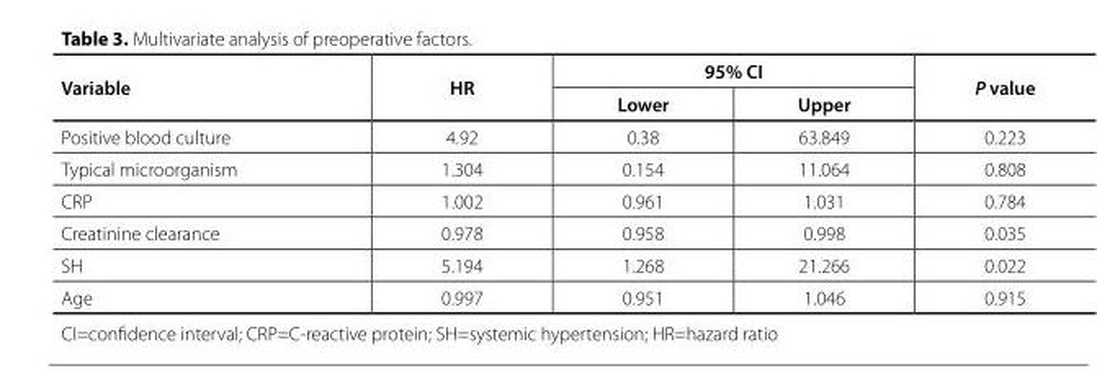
<table><thead><tr><td rowspan="2">Variable</td><td rowspan="2">HR</td><td colspan="2">95% CI</td><td rowspan="2">P value</td></tr><tr><td>Lower</td><td>Upper</td></tr></thead><tbody><tr><td>Positive blood culture</td><td>4.92</td><td>0.38</td><td>63.849</td><td>0.223</td></tr><tr><td>Typical microorganism</td><td>1.304</td><td>0.154</td><td>11.064</td><td>0.808</td></tr><tr><td>CRP</td><td>1.002</td><td>0.961</td><td>1.031</td><td>0.784</td></tr><tr><td>Creatinine clearance</td><td>0.978</td><td>0.958</td><td>0.998</td><td>0.035</td></tr><tr><td>SH</td><td>5.194</td><td>1.268</td><td>21.266</td><td>0.022</td></tr><tr><td>Age</td><td>0.997</td><td>0.951</td><td>1.046</td><td>0.915</td></tr></tbody></table>